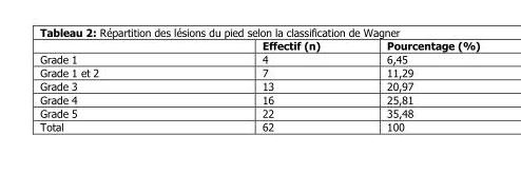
<table><thead><tr><td></td><td>Effectif (n)</td><td>Pourcentage (%)</td></tr></thead><tbody><tr><td>Grade 1</td><td>4</td><td>6,45</td></tr><tr><td>Grade 1 et 2</td><td>7</td><td>11,29</td></tr><tr><td>Grade 3</td><td>13</td><td>20,97</td></tr><tr><td>Grade 4</td><td>16</td><td>25,81</td></tr><tr><td>Grade 5</td><td>22</td><td>35,48</td></tr><tr><td>Total</td><td>62</td><td>100</td></tr></tbody></table>